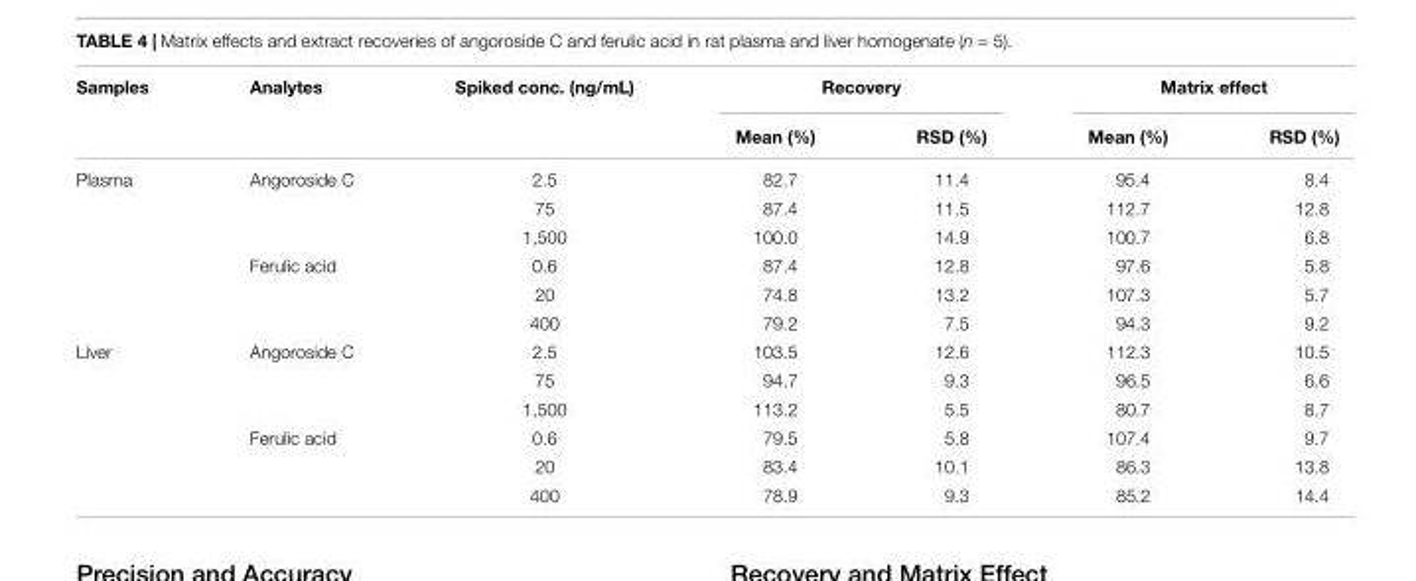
<table><thead><tr><td rowspan="2">Samples</td><td rowspan="2">Analytes</td><td rowspan="2">Spiked conc. (ng/mL)</td><td colspan="2">Recovery</td><td colspan="2">Matrix effect</td></tr><tr><td>Mean (%)</td><td>RSD (%)</td><td>Mean (%)</td><td>RSD (%)</td></tr></thead><tbody><tr><td rowspan="6">Plasma</td><td>Angoroside C</td><td>2.5</td><td>82.7</td><td>11.4</td><td>95.4</td><td>8.4</td></tr><tr><td></td><td>75</td><td>87.4</td><td>11.5</td><td>112.7</td><td>12.8</td></tr><tr><td></td><td>1,500</td><td>100.0</td><td>14.9</td><td>100.7</td><td>6.8</td></tr><tr><td>Ferulic acid</td><td>0.6</td><td>87.4</td><td>12.8</td><td>97.6</td><td>5.8</td></tr><tr><td></td><td>20</td><td>74.8</td><td>13.2</td><td>107.3</td><td>5.7</td></tr><tr><td></td><td>400</td><td>79.2</td><td>7.5</td><td>94.3</td><td>9.2</td></tr><tr><td rowspan="6">Liver</td><td>Angoroside C</td><td>2.5</td><td>103.5</td><td>12.6</td><td>112.3</td><td>10.5</td></tr><tr><td></td><td>75</td><td>94.7</td><td>9.3</td><td>96.5</td><td>6.6</td></tr><tr><td></td><td>1,500</td><td>113.2</td><td>5.5</td><td>80.7</td><td>8.7</td></tr><tr><td>Ferulic acid</td><td>0.6</td><td>79.5</td><td>5.8</td><td>107.4</td><td>9.7</td></tr><tr><td></td><td>20</td><td>83.4</td><td>10.1</td><td>86.3</td><td>13.8</td></tr><tr><td></td><td>400</td><td>78.9</td><td>9.3</td><td>85.2</td><td>14.4</td></tr></tbody></table>